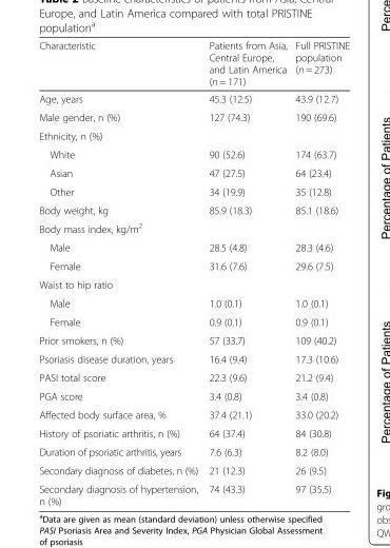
<table><thead><tr><td>Characteristic</td><td>Patients from Asia, Central Europe, and Latin America (n = 171)</td><td>Full PRISTINE population (n = 273)</td></tr></thead><tbody><tr><td>Age, years</td><td>45.3 (12.5)</td><td>43.9 (12.7)</td></tr><tr><td>Male gender, n (%)</td><td>127 (74.3)</td><td>190 (69.6)</td></tr><tr><td colspan="3">Ethnicity, n (%)</td></tr><tr><td>White</td><td>90 (52.6)</td><td>174 (63.7)</td></tr><tr><td>Asian</td><td>47 (27.5)</td><td>64 (23.4)</td></tr><tr><td>Other</td><td>34 (19.9)</td><td>35 (12.8)</td></tr><tr><td>Body weight, kg</td><td>85.9 (18.3)</td><td>85.1 (18.6)</td></tr><tr><td colspan="3">Body mass index, kg/m<sup>2</sup></td></tr><tr><td>Male</td><td>28.5 (4.8)</td><td>28.3 (4.6)</td></tr><tr><td>Female</td><td>31.6 (7.6)</td><td>29.6 (7.5)</td></tr><tr><td colspan="3">Waist to hip ratio</td></tr><tr><td>Male</td><td>1.0 (0.1)</td><td>1.0 (0.1)</td></tr><tr><td>Female</td><td>0.9 (0.1)</td><td>0.9 (0.1)</td></tr><tr><td>Prior smokers, n (%)</td><td>57 (33.7)</td><td>109 (40.2)</td></tr><tr><td>Psoriasis disease duration, years</td><td>16.4 (9.4)</td><td>17.3 (10.6)</td></tr><tr><td>PASI total score</td><td>22.3 (9.6)</td><td>21.2 (9.4)</td></tr><tr><td>PGA score</td><td>3.4 (0.8)</td><td>3.4 (0.8)</td></tr><tr><td>Affected body surface area, %</td><td>37.4 (21.1)</td><td>33.0 (20.2)</td></tr><tr><td>History of psoriatic arthritis, n (%)</td><td>64 (37.4)</td><td>84 (30.8)</td></tr><tr><td>Duration of psoriatic arthritis, years</td><td>7.6 (6.3)</td><td>8.2 (8.0)</td></tr><tr><td>Secondary diagnosis of diabetes, n (%)</td><td>21 (12.3)</td><td>26 (9.5)</td></tr><tr><td>Secondary diagnosis of hypertension, n (%)</td><td>74 (43.3)</td><td>97 (35.5)</td></tr></tbody></table>